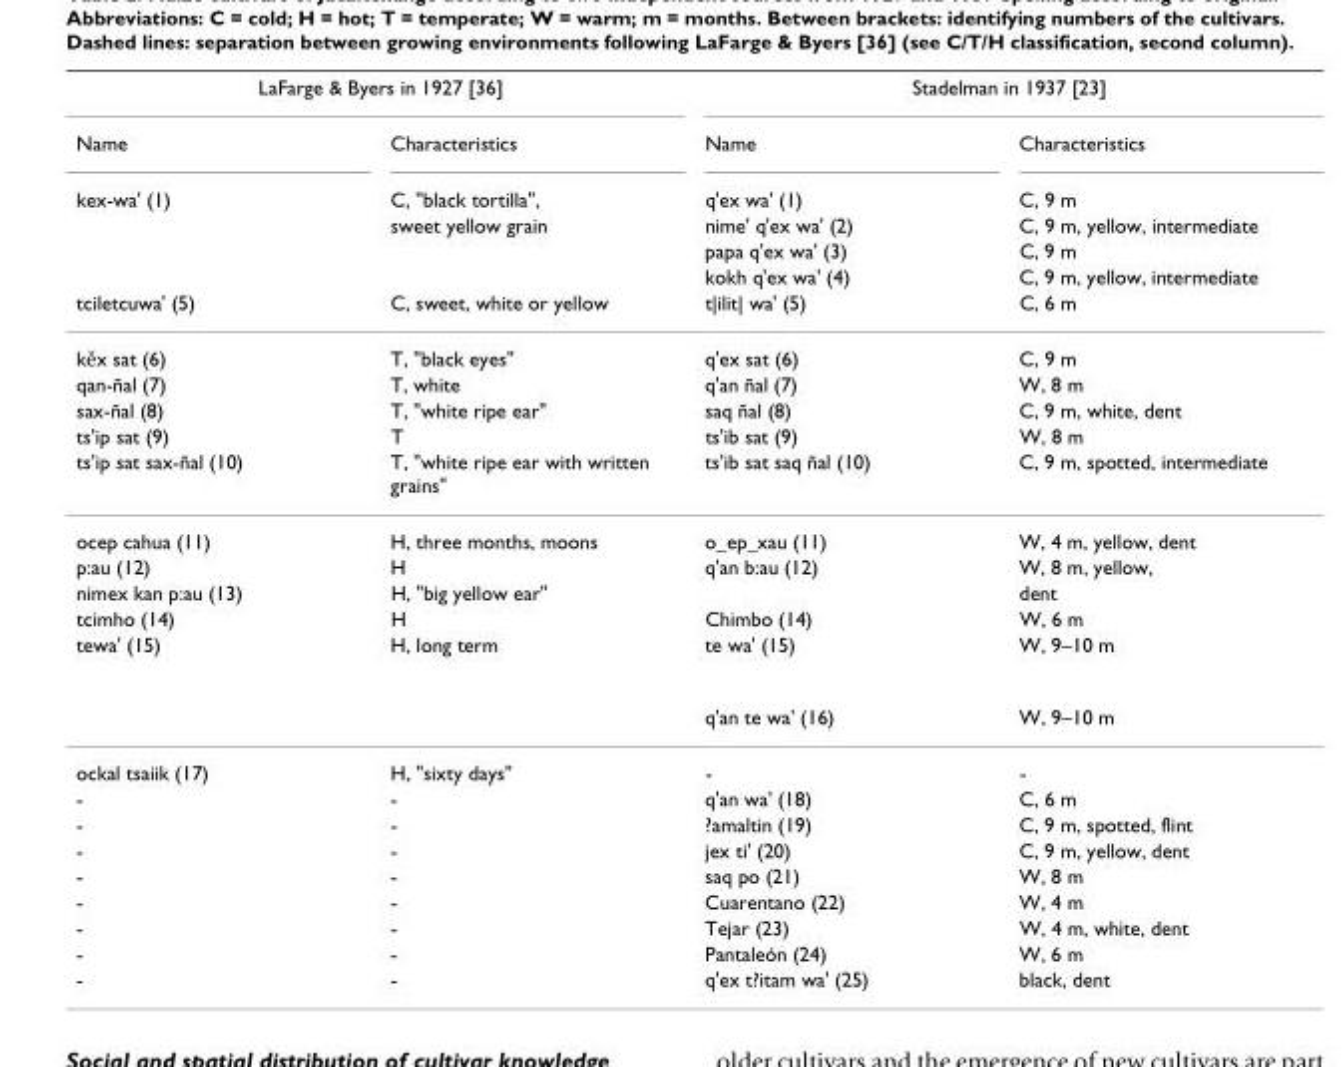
<table><thead><tr><td colspan="2">LaFarge &amp; Byers in 1927 [36]</td><td colspan="2">Stadelman in 1937 [23]</td></tr><tr><td rowspan="6">Name kex-wa&#x27; (1) tciletcuwa&#x27; (5)</td><td rowspan="6">Characteristics C, &quot;black tortilla&quot;, sweet yellow grain C, sweet, white or yellow</td><td rowspan="6">Name q&#x27;ex wa&#x27; (1) nime&#x27; q&#x27;ex wa&#x27; (2) papa q&#x27;ex wa&#x27; (3) kokh q&#x27;ex wa&#x27; (4) t|ilit| wa&#x27; (5)</td><td rowspan="6">Characteristics C, 9 m C, 9 m, yellow, intermediate C, 9 m C, 9 m, yellow, intermediate C, 6 m</td></tr><tr></tr><tr></tr><tr></tr><tr></tr><tr></tr></thead><tbody><tr><td>kЕx sat (6)</td><td>T, &quot;black eyes&quot;</td><td>q&#x27;ex sat (6)</td><td>C, 9 m</td></tr><tr><td>qan-ñal (7)</td><td>T, white</td><td>q&#x27;an ñal (7)</td><td>W, 8 m</td></tr><tr><td>sax-ñal (8)</td><td>T, &quot;white ripe ear&quot;</td><td>saq ñal (8)</td><td>C, 9 m, white, dent</td></tr><tr><td>ts&#x27;ip sat (9)</td><td>T</td><td>ts&#x27;ib sat (9)</td><td>W, 8 m</td></tr><tr><td>ts&#x27;ip sat sax-ñal (10)</td><td>T, &quot;white ripe ear with written grains&quot;</td><td>ts&#x27;ib sat saq ñal (10)</td><td>C, 9 m, spotted, intermediate</td></tr><tr><td>ocep cahua (11)</td><td>H, three months, moons</td><td>o_ep_xau (11)</td><td>W, 4 m, yellow, dent</td></tr><tr><td>p:au (12)</td><td>H</td><td>q&#x27;an b:au (12)</td><td>W, 8 m, yellow,</td></tr><tr><td>nimex kan p:au (13)</td><td>H, &quot;big yellow ear&quot;</td><td></td><td>dent</td></tr><tr><td>tcimho (14)</td><td>H</td><td>Chimbo (14)</td><td>W, 6 m</td></tr><tr><td rowspan="2">tewa&#x27; (15)</td><td>H, long term</td><td>te wa&#x27; (15)</td><td>W, 9–10 m</td></tr><tr><td></td><td>q&#x27;an te wa&#x27; (16)</td><td>W, 9–10 m</td></tr><tr><td>ockal tsaiik (17)</td><td>H, &quot;sixty days&quot;</td><td>-</td><td>-</td></tr><tr><td>-</td><td>-</td><td>q&#x27;an wa&#x27; (18)</td><td>C, 6 m</td></tr><tr><td>-</td><td>-</td><td>?amaltin (19)</td><td>C, 9 m, spotted, flint</td></tr><tr><td>-</td><td>-</td><td>jex ti&#x27; (20)</td><td>C, 9 m, yellow, dent</td></tr><tr><td>-</td><td>-</td><td>saq po (21)</td><td>W, 8 m</td></tr><tr><td>-</td><td>-</td><td>Cuarentano (22)</td><td>W, 4 m</td></tr><tr><td>-</td><td>-</td><td>Tejar (23)</td><td>W, 4 m, white, dent</td></tr><tr><td>-</td><td>-</td><td>Pantaleón (24)</td><td>W, 6 m</td></tr><tr><td>-</td><td>-</td><td>q&#x27;ex t?itam wa&#x27; (25)</td><td>black, dent</td></tr></tbody></table>